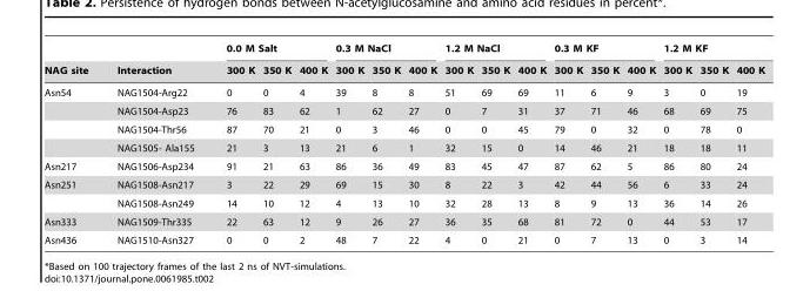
<table><thead><tr><td rowspan="2">NAG site</td><td rowspan="2">Interaction</td><td colspan="3">0.0 M Salt</td><td colspan="3">0.3 M NaCl</td><td colspan="3">1.2 M NaCl</td><td colspan="3">0.3 M KF</td><td colspan="3">1.2 M KF</td></tr><tr><td>300 K</td><td>350 K</td><td>400 K</td><td>300 K</td><td>350 K</td><td>400 K</td><td>300 K</td><td>350 K</td><td>400 K</td><td>300 K</td><td>350 K</td><td>400 K</td><td>300 K</td><td>350 K</td><td>400 K</td></tr></thead><tbody><tr><td rowspan="4">Asn54</td><td>NAG1504-Arg22</td><td>0</td><td>0</td><td>4</td><td>39</td><td>8</td><td>8</td><td>51</td><td>69</td><td>69</td><td>11</td><td>6</td><td>9</td><td>3</td><td>0</td><td>19</td></tr><tr><td>NAG1504-Asp23</td><td>76</td><td>83</td><td>62</td><td>1</td><td>62</td><td>27</td><td>0</td><td>7</td><td>31</td><td>37</td><td>71</td><td>46</td><td>68</td><td>69</td><td>75</td></tr><tr><td>NAG1504-Thr56</td><td>87</td><td>70</td><td>21</td><td>0</td><td>3</td><td>46</td><td>0</td><td>0</td><td>45</td><td>79</td><td>0</td><td>32</td><td>0</td><td>78</td><td>0</td></tr><tr><td>NAG1505- Ala155</td><td>21</td><td>3</td><td>13</td><td>21</td><td>6</td><td>1</td><td>32</td><td>15</td><td>0</td><td>14</td><td>46</td><td>21</td><td>18</td><td>18</td><td>11</td></tr><tr><td>Asn217</td><td>NAG1506-Asp234</td><td>91</td><td>21</td><td>63</td><td>86</td><td>36</td><td>49</td><td>83</td><td>45</td><td>47</td><td>87</td><td>62</td><td>5</td><td>86</td><td>80</td><td>24</td></tr><tr><td rowspan="2">Asn251</td><td>NAG1508-Asn217</td><td>3</td><td>22</td><td>29</td><td>69</td><td>15</td><td>30</td><td>8</td><td>22</td><td>3</td><td>42</td><td>44</td><td>56</td><td>6</td><td>33</td><td>24</td></tr><tr><td>NAG1508-Asn249</td><td>14</td><td>10</td><td>12</td><td>4</td><td>13</td><td>10</td><td>32</td><td>28</td><td>13</td><td>8</td><td>9</td><td>13</td><td>36</td><td>14</td><td>26</td></tr><tr><td>Asn333</td><td>NAG1509-Thr335</td><td>22</td><td>63</td><td>12</td><td>9</td><td>26</td><td>27</td><td>36</td><td>35</td><td>68</td><td>81</td><td>72</td><td>0</td><td>44</td><td>53</td><td>17</td></tr><tr><td>Asn436</td><td>NAG1510-Asn327</td><td>0</td><td>0</td><td>2</td><td>48</td><td>7</td><td>22</td><td>4</td><td>0</td><td>21</td><td>0</td><td>7</td><td>13</td><td>0</td><td>3</td><td>14</td></tr></tbody></table>